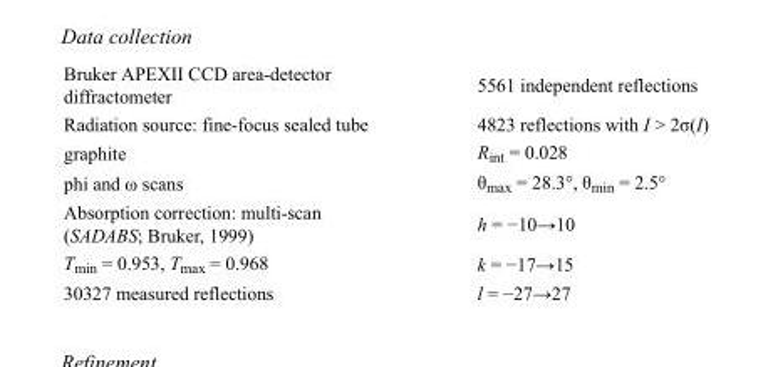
<table><tbody><tr><td>Bruker APEXII CCD area-detector diffractometer</td><td>5561 independent reflections</td></tr><tr><td>Radiation source: fine-focus sealed tube</td><td>4823 reflections with I &gt; 2σ(I)</td></tr><tr><td>graphite</td><td>R<sub>int</sub> = 0.028</td></tr><tr><td>phi and ω scans</td><td>θ<sub>max</sub> = 28.3°, θ<sub>min</sub> = 2.5°</td></tr><tr><td>Absorption correction: multi-scan (SADABS; Bruker, 1999)</td><td>h = −10→10</td></tr><tr><td>T<sub>min</sub> = 0.953, T<sub>max</sub> = 0.968</td><td>k = −17→15</td></tr><tr><td>30327 measured reflections</td><td>l = −27→27</td></tr></tbody></table>